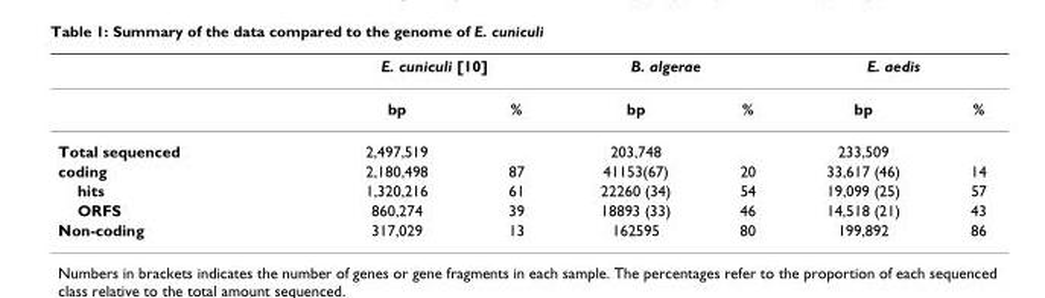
<table><thead><tr><td rowspan="2"></td><td colspan="2">E. cuniculi [10]</td><td colspan="2">B. algerae</td><td colspan="2">E. aedis</td></tr><tr><td>bp</td><td>%</td><td>bp</td><td>%</td><td>bp</td><td>%</td></tr></thead><tbody><tr><td>Total sequenced</td><td>2,497,519</td><td></td><td>203,748</td><td></td><td>233,509</td><td></td></tr><tr><td>coding</td><td>2,180,498</td><td>87</td><td>41153(67)</td><td>20</td><td>33,617 (46)</td><td>14</td></tr><tr><td>hits</td><td>1,320,216</td><td>61</td><td>22260 (34)</td><td>54</td><td>19,099 (25)</td><td>57</td></tr><tr><td>ORFS</td><td>860,274</td><td>39</td><td>18893 (33)</td><td>46</td><td>14,518 (21)</td><td>43</td></tr><tr><td>Non-coding</td><td>317,029</td><td>13</td><td>162595</td><td>80</td><td>199,892</td><td>86</td></tr></tbody></table>